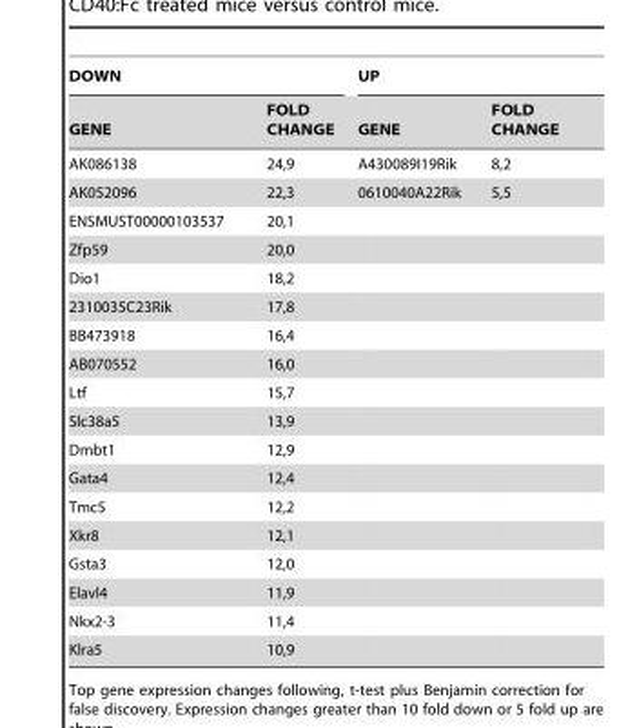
<table><thead><tr><td colspan="2">DOWN</td><td colspan="2">UP</td></tr><tr><td>GENE</td><td>FOLD CHANGE</td><td>GENE</td><td>FOLD CHANGE</td></tr></thead><tbody><tr><td>AK086138</td><td>24,9</td><td>A430089I19Rik</td><td>8,2</td></tr><tr><td>AK052096</td><td>22,3</td><td>0610040A22Rik</td><td>5,5</td></tr><tr><td>ENSMUST00000103537</td><td>20,1</td><td></td><td></td></tr><tr><td>Zfp59</td><td>20,0</td><td></td><td></td></tr><tr><td>Dio1</td><td>18,2</td><td></td><td></td></tr><tr><td>2310035C23Rik</td><td>17,8</td><td></td><td></td></tr><tr><td>BB473918</td><td>16,4</td><td></td><td></td></tr><tr><td>AB070552</td><td>16,0</td><td></td><td></td></tr><tr><td>Ltf</td><td>15,7</td><td></td><td></td></tr><tr><td>Slc38a5</td><td>13,9</td><td></td><td></td></tr><tr><td>Dmbt1</td><td>12,9</td><td></td><td></td></tr><tr><td>Gata4</td><td>12,4</td><td></td><td></td></tr><tr><td>Tmc5</td><td>12,2</td><td></td><td></td></tr><tr><td>Xkr8</td><td>12,1</td><td></td><td></td></tr><tr><td>Gsta3</td><td>12,0</td><td></td><td></td></tr><tr><td>Elavl4</td><td>11,9</td><td></td><td></td></tr><tr><td>Nkx2-3</td><td>11,4</td><td></td><td></td></tr><tr><td>Klra5</td><td>10,9</td><td></td><td></td></tr></tbody></table>